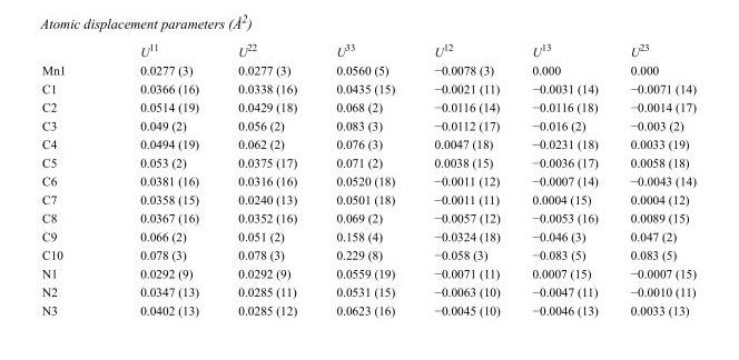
<table><thead><tr><td></td><td>U<sup>11</sup></td><td>U<sup>22</sup></td><td>U<sup>33</sup></td><td>U<sup>12</sup></td><td>U<sup>13</sup></td><td>U<sup>23</sup></td></tr></thead><tbody><tr><td>Mn1</td><td>0.0277 (3)</td><td>0.0277 (3)</td><td>0.0560 (5)</td><td>−0.0078 (3)</td><td>0.000</td><td>0.000</td></tr><tr><td>C1</td><td>0.0366 (16)</td><td>0.0338 (16)</td><td>0.0435 (15)</td><td>−0.0021 (11)</td><td>−0.0031 (14)</td><td>−0.0071 (14)</td></tr><tr><td>C2</td><td>0.0514 (19)</td><td>0.0429 (18)</td><td>0.068 (2)</td><td>−0.0116 (14)</td><td>−0.0116 (18)</td><td>−0.0014 (17)</td></tr><tr><td>C3</td><td>0.049 (2)</td><td>0.056 (2)</td><td>0.083 (3)</td><td>−0.0112 (17)</td><td>−0.016 (2)</td><td>−0.003 (2)</td></tr><tr><td>C4</td><td>0.0494 (19)</td><td>0.062 (2)</td><td>0.076 (3)</td><td>0.0047 (18)</td><td>−0.0231 (18)</td><td>0.0033 (19)</td></tr><tr><td>C5</td><td>0.053 (2)</td><td>0.0375 (17)</td><td>0.071 (2)</td><td>0.0038 (15)</td><td>−0.0036 (17)</td><td>0.0058 (18)</td></tr><tr><td>C6</td><td>0.0381 (16)</td><td>0.0316 (16)</td><td>0.0520 (18)</td><td>−0.0011 (12)</td><td>−0.0007 (14)</td><td>−0.0043 (14)</td></tr><tr><td>C7</td><td>0.0358 (15)</td><td>0.0240 (13)</td><td>0.0501 (18)</td><td>−0.0011 (11)</td><td>0.0004 (15)</td><td>0.0004 (12)</td></tr><tr><td>C8</td><td>0.0367 (16)</td><td>0.0352 (16)</td><td>0.069 (2)</td><td>−0.0057 (12)</td><td>−0.0053 (16)</td><td>0.0089 (15)</td></tr><tr><td>C9</td><td>0.066 (2)</td><td>0.051 (2)</td><td>0.158 (4)</td><td>−0.0324 (18)</td><td>−0.046 (3)</td><td>0.047 (2)</td></tr><tr><td>C10</td><td>0.078 (3)</td><td>0.078 (3)</td><td>0.229 (8)</td><td>−0.058 (3)</td><td>−0.083 (5)</td><td>0.083 (5)</td></tr><tr><td>N1</td><td>0.0292 (9)</td><td>0.0292 (9)</td><td>0.0559 (19)</td><td>−0.0071 (11)</td><td>0.0007 (15)</td><td>−0.0007 (15)</td></tr><tr><td>N2</td><td>0.0347 (13)</td><td>0.0285 (11)</td><td>0.0531 (15)</td><td>−0.0063 (10)</td><td>−0.0047 (11)</td><td>−0.0010 (11)</td></tr><tr><td>N3</td><td>0.0402 (13)</td><td>0.0285 (12)</td><td>0.0623 (16)</td><td>−0.0045 (10)</td><td>−0.0046 (13)</td><td>0.0033 (13)</td></tr></tbody></table>